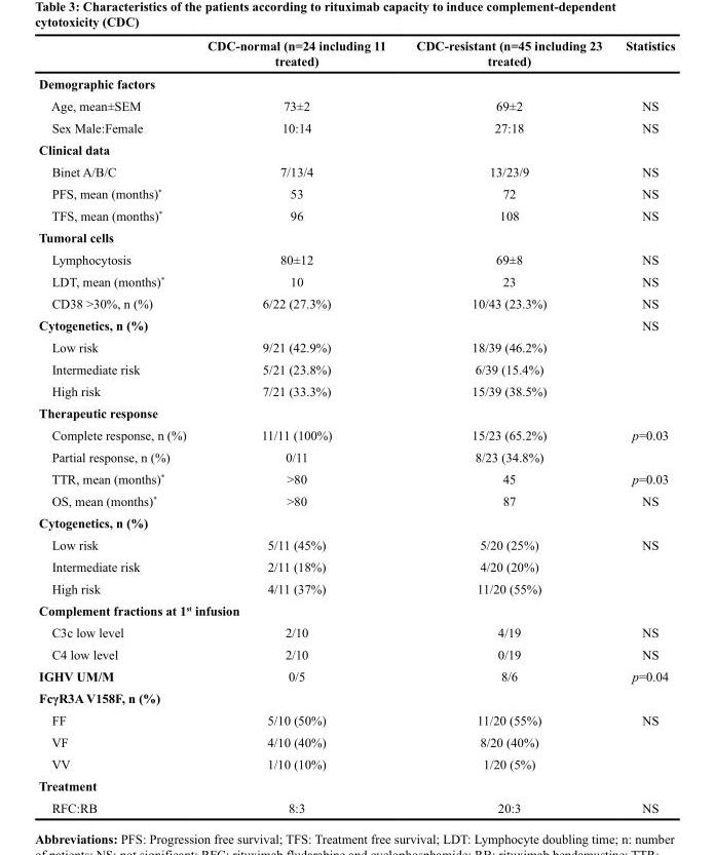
<table><thead><tr><td></td><td>CDC-normal (n=24 including 11 treated)</td><td>CDC-resistant (n=45 including 23 treated)</td><td>Statistics</td></tr></thead><tbody><tr><td colspan="4">Demographic factors</td></tr><tr><td>Age, mean±SEM</td><td>73±2</td><td>69±2</td><td>NS</td></tr><tr><td>Sex Male:Female</td><td>10:14</td><td>27:18</td><td>NS</td></tr><tr><td colspan="4">Clinical data</td></tr><tr><td>Binet A/B/C</td><td>7/13/4</td><td>13/23/9</td><td>NS</td></tr><tr><td>PFS, mean (months)*</td><td>53</td><td>72</td><td>NS</td></tr><tr><td>TFS, mean (months)*</td><td>96</td><td>108</td><td>NS</td></tr><tr><td colspan="4">Tumoral cells</td></tr><tr><td>Lymphocytosis</td><td>80±12</td><td>69±8</td><td>NS</td></tr><tr><td>LDT, mean (months)*</td><td>10</td><td>23</td><td>NS</td></tr><tr><td>CD38 &gt;30%, n (%)</td><td>6/22 (27.3%)</td><td>10/43 (23.3%)</td><td>NS</td></tr><tr><td>Cytogenetics, n (%)</td><td></td><td></td><td>NS</td></tr><tr><td>Low risk</td><td>9/21 (42.9%)</td><td>18/39 (46.2%)</td><td></td></tr><tr><td>Intermediate risk</td><td>5/21 (23.8%)</td><td>6/39 (15.4%)</td><td></td></tr><tr><td>High risk</td><td>7/21 (33.3%)</td><td>15/39 (38.5%)</td><td></td></tr><tr><td colspan="4">Therapeutic response</td></tr><tr><td>Complete response, n (%)</td><td>11/11 (100%)</td><td>15/23 (65.2%)</td><td>p=0.03</td></tr><tr><td>Partial response, n (%)</td><td>0/11</td><td>8/23 (34.8%)</td><td></td></tr><tr><td>TTR, mean (months)*</td><td>&gt;80</td><td>45</td><td>p=0.03</td></tr><tr><td>OS, mean (months)*</td><td>&gt;80</td><td>87</td><td>NS</td></tr><tr><td colspan="4">Cytogenetics, n (%)</td></tr><tr><td>Low risk</td><td>5/11 (45%)</td><td>5/20 (25%)</td><td>NS</td></tr><tr><td>Intermediate risk</td><td>2/11 (18%)</td><td>4/20 (20%)</td><td></td></tr><tr><td>High risk</td><td>4/11 (37%)</td><td>11/20 (55%)</td><td></td></tr><tr><td colspan="4">Complement fractions at 1<sup>st</sup> infusion</td></tr><tr><td>C3c low level</td><td>2/10</td><td>4/19</td><td>NS</td></tr><tr><td>C4 low level</td><td>2/10</td><td>0/19</td><td>NS</td></tr><tr><td>IGHV UM/M</td><td>0/5</td><td>8/6</td><td>p=0.04</td></tr><tr><td colspan="4">FcγR3A V158F, n (%)</td></tr><tr><td>FF</td><td>5/10 (50%)</td><td>11/20 (55%)</td><td>NS</td></tr><tr><td>VF</td><td>4/10 (40%)</td><td>8/20 (40%)</td><td></td></tr><tr><td>VV</td><td>1/10 (10%)</td><td>1/20 (5%)</td><td></td></tr><tr><td colspan="4">Treatment</td></tr><tr><td>RFC:RB</td><td>8:3</td><td>20:3</td><td>NS</td></tr></tbody></table>